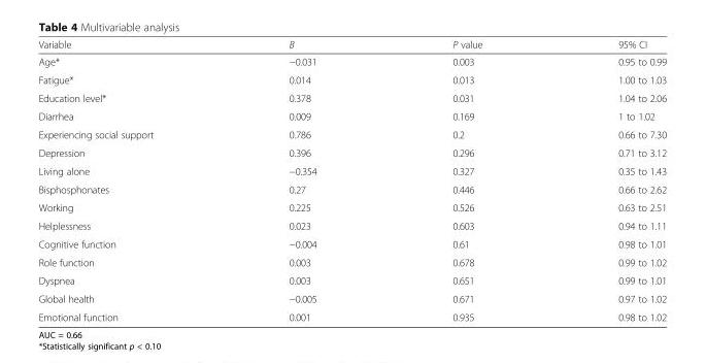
<table><thead><tr><td>Variable</td><td>B</td><td>P value</td><td>95% CI</td></tr></thead><tbody><tr><td>Age*</td><td>−0.031</td><td>0.003</td><td>0.95 to 0.99</td></tr><tr><td>Fatigue*</td><td>0.014</td><td>0.013</td><td>1.00 to 1.03</td></tr><tr><td>Education level*</td><td>0.378</td><td>0.031</td><td>1.04 to 2.06</td></tr><tr><td>Diarrhea</td><td>0.009</td><td>0.169</td><td>1 to 1.02</td></tr><tr><td>Experiencing social support</td><td>0.786</td><td>0.2</td><td>0.66 to 7.30</td></tr><tr><td>Depression</td><td>0.396</td><td>0.296</td><td>0.71 to 3.12</td></tr><tr><td>Living alone</td><td>−0.354</td><td>0.327</td><td>0.35 to 1.43</td></tr><tr><td>Bisphosphonates</td><td>0.27</td><td>0.446</td><td>0.66 to 2.62</td></tr><tr><td>Working</td><td>0.225</td><td>0.526</td><td>0.63 to 2.51</td></tr><tr><td>Helplessness</td><td>0.023</td><td>0.603</td><td>0.94 to 1.11</td></tr><tr><td>Cognitive function</td><td>−0.004</td><td>0.61</td><td>0.98 to 1.01</td></tr><tr><td>Role function</td><td>0.003</td><td>0.678</td><td>0.99 to 1.02</td></tr><tr><td>Dyspnea</td><td>0.003</td><td>0.651</td><td>0.99 to 1.01</td></tr><tr><td>Global health</td><td>−0.005</td><td>0.671</td><td>0.97 to 1.02</td></tr><tr><td>Emotional function</td><td>0.001</td><td>0.935</td><td>0.98 to 1.02</td></tr></tbody></table>